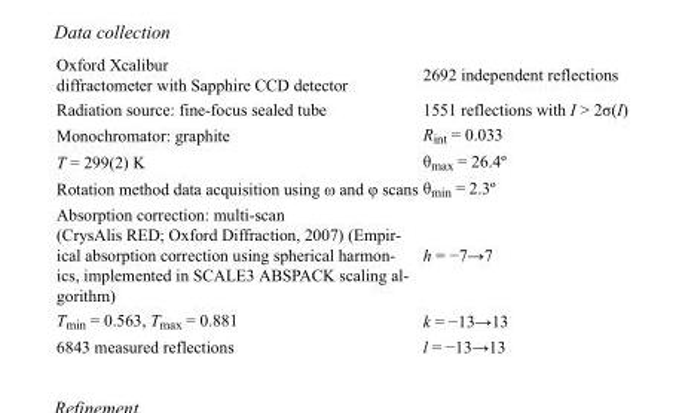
<table><tbody><tr><td>Oxford Xcalibur diffractometer with Sapphire CCD detector</td><td>2692 independent reflections</td></tr><tr><td>Radiation source: fine-focus sealed tube</td><td>1551 reflections with I &gt; 2σ(I)</td></tr><tr><td>Monochromator: graphite</td><td>R<sub>int</sub> = 0.033</td></tr><tr><td>T = 299(2) K</td><td>θ<sub>max</sub> = 26.4º</td></tr><tr><td>Rotation method data acquisition using ω and φ scans</td><td>θ<sub>min</sub> = 2.3º</td></tr><tr><td>Absorption correction: multi-scan (CrysAlis RED; Oxford Diffraction, 2007) (Empir- ical absorption correction using spherical harmon- ics, implemented in SCALE3 ABSPACK scaling al- gorithm)</td><td>h = −7→7</td></tr><tr><td>T<sub>min</sub> = 0.563, T<sub>max</sub> = 0.881</td><td>k = −13→13</td></tr><tr><td>6843 measured reflections</td><td>l = −13→13</td></tr></tbody></table>